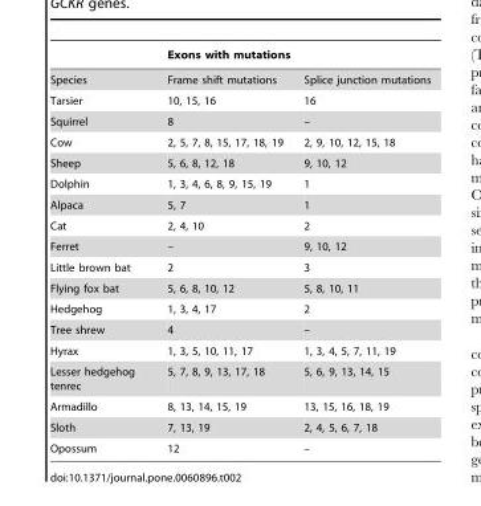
<table><thead><tr><td rowspan="2">Species</td><td colspan="2">Exons with mutations</td></tr><tr><td>Frame shift mutations</td><td>Splice junction mutations</td></tr></thead><tbody><tr><td>Tarsier</td><td>10, 15, 16</td><td>16</td></tr><tr><td>Squirrel</td><td>8</td><td>–</td></tr><tr><td>Cow</td><td>2, 5, 7, 8, 15, 17, 18, 19</td><td>2, 9, 10, 12, 15, 18</td></tr><tr><td>Sheep</td><td>5, 6, 8, 12, 18</td><td>9, 10, 12</td></tr><tr><td>Dolphin</td><td>1, 3, 4, 6, 8, 9, 15, 19</td><td>1</td></tr><tr><td>Alpaca</td><td>5, 7</td><td>1</td></tr><tr><td>Cat</td><td>2, 4, 10</td><td>2</td></tr><tr><td>Ferret</td><td>–</td><td>9, 10, 12</td></tr><tr><td>Little brown bat</td><td>2</td><td>3</td></tr><tr><td>Flying fox bat</td><td>5, 6, 8, 10, 12</td><td>5, 8, 10, 11</td></tr><tr><td>Hedgehog</td><td>1, 3, 4, 17</td><td>2</td></tr><tr><td>Tree shrew</td><td>4</td><td>–</td></tr><tr><td>Hyrax</td><td>1, 3, 5, 10, 11, 17</td><td>1, 3, 4, 5, 7, 11, 19</td></tr><tr><td>Lesser hedgehog tenrec</td><td>5, 7, 8, 9, 13, 17, 18</td><td>5, 6, 9, 13, 14, 15</td></tr><tr><td>Armadillo</td><td>8, 13, 14, 15, 19</td><td>13, 15, 16, 18, 19</td></tr><tr><td>Sloth</td><td>7, 13, 19</td><td>2, 4, 5, 6, 7, 18</td></tr><tr><td>Opossum</td><td>12</td><td>–</td></tr></tbody></table>